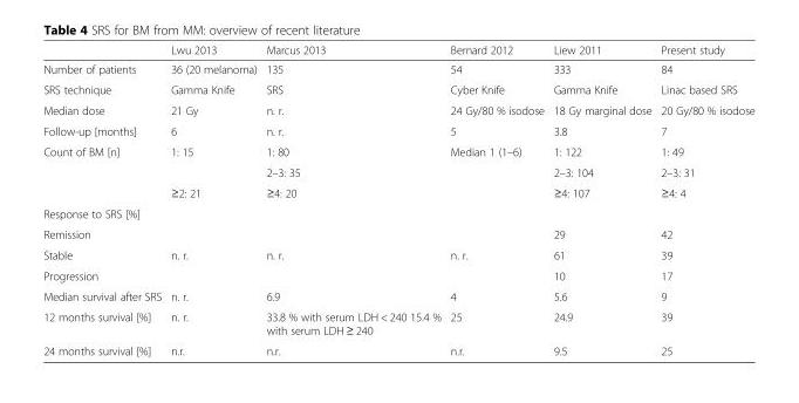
<table><thead><tr><td></td><td>Lwu 2013</td><td>Marcus 2013</td><td>Bernard 2012</td><td>Liew 2011</td><td>Present study</td></tr></thead><tbody><tr><td>Number of patients</td><td>36 (20 melanoma)</td><td>135</td><td>54</td><td>333</td><td>84</td></tr><tr><td>SRS technique</td><td>Gamma Knife</td><td>SRS</td><td>Cyber Knife</td><td>Gamma Knife</td><td>Linac based SRS</td></tr><tr><td>Median dose</td><td>21 Gy</td><td>n. r.</td><td>24 Gy/80 % isodose</td><td>18 Gy marginal dose</td><td>20 Gy/80 % isodose</td></tr><tr><td>Follow-up [months]</td><td>6</td><td>n. r.</td><td>5</td><td>3.8</td><td>7</td></tr><tr><td rowspan="3">Count of BM [n]</td><td rowspan="2">1: 15</td><td>1: 80</td><td>Median 1 (1–6)</td><td>1: 122</td><td>1: 49</td></tr><tr><td>2–3: 35</td><td></td><td>2–3: 104</td><td>2–3: 31</td></tr><tr><td>≥2: 21</td><td>≥4: 20</td><td></td><td>≥4: 107</td><td>≥4: 4</td></tr><tr><td colspan="6">Response to SRS [%]</td></tr><tr><td>Remission</td><td></td><td></td><td></td><td>29</td><td>42</td></tr><tr><td>Stable</td><td>n. r.</td><td>n. r.</td><td>n. r.</td><td>61</td><td>39</td></tr><tr><td>Progression</td><td></td><td></td><td></td><td>10</td><td>17</td></tr><tr><td>Median survival after SRS</td><td>n. r.</td><td>6.9</td><td>4</td><td>5.6</td><td>9</td></tr><tr><td>12 months survival [%]</td><td>n. r.</td><td>33.8 % with serum LDH &lt; 240 15.4 % with serum LDH ≥ 240</td><td>25</td><td>24.9</td><td>39</td></tr><tr><td>24 months survival [%]</td><td>n.r.</td><td>n.r.</td><td>n.r.</td><td>9.5</td><td>25</td></tr></tbody></table>